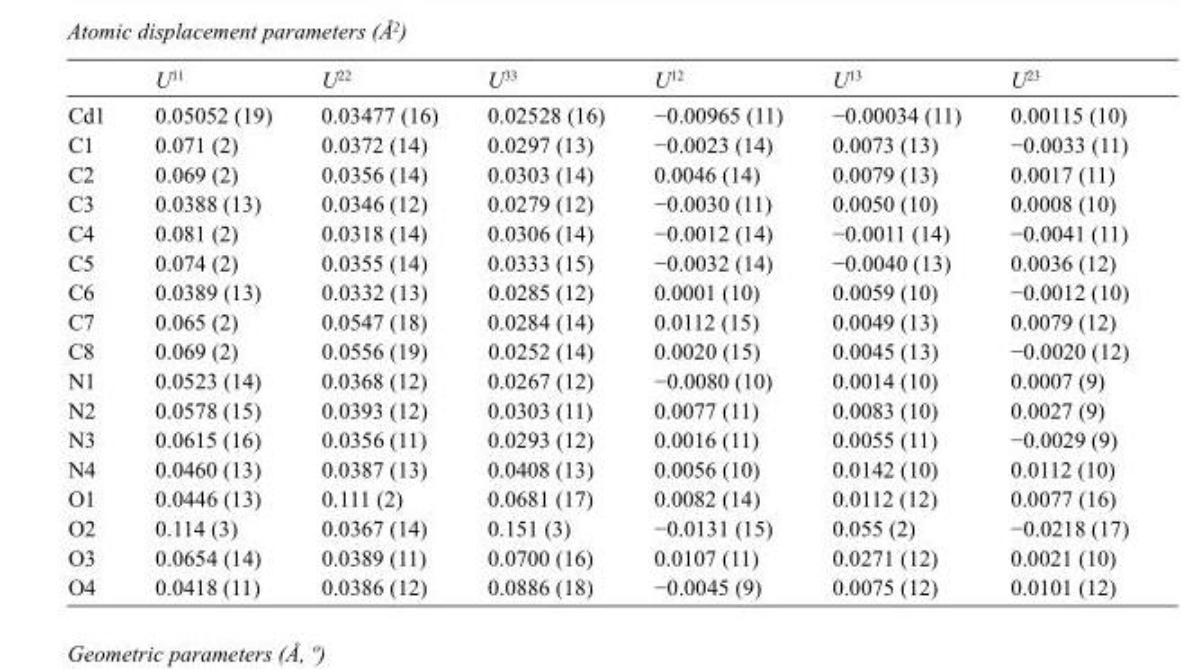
<table><thead><tr><td></td><td>U<sup>11</sup></td><td>U<sup>22</sup></td><td>U<sup>33</sup></td><td>U<sup>12</sup></td><td>U<sup>13</sup></td><td>U<sup>23</sup></td></tr></thead><tbody><tr><td>Cd1</td><td>0.05052 (19)</td><td>0.03477 (16)</td><td>0.02528 (16)</td><td>−0.00965 (11)</td><td>−0.00034 (11)</td><td>0.00115 (10)</td></tr><tr><td>C1</td><td>0.071 (2)</td><td>0.0372 (14)</td><td>0.0297 (13)</td><td>−0.0023 (14)</td><td>0.0073 (13)</td><td>−0.0033 (11)</td></tr><tr><td>C2</td><td>0.069 (2)</td><td>0.0356 (14)</td><td>0.0303 (14)</td><td>0.0046 (14)</td><td>0.0079 (13)</td><td>0.0017 (11)</td></tr><tr><td>C3</td><td>0.0388 (13)</td><td>0.0346 (12)</td><td>0.0279 (12)</td><td>−0.0030 (11)</td><td>0.0050 (10)</td><td>0.0008 (10)</td></tr><tr><td>C4</td><td>0.081 (2)</td><td>0.0318 (14)</td><td>0.0306 (14)</td><td>−0.0012 (14)</td><td>−0.0011 (14)</td><td>−0.0041 (11)</td></tr><tr><td>C5</td><td>0.074 (2)</td><td>0.0355 (14)</td><td>0.0333 (15)</td><td>−0.0032 (14)</td><td>−0.0040 (13)</td><td>0.0036 (12)</td></tr><tr><td>C6</td><td>0.0389 (13)</td><td>0.0332 (13)</td><td>0.0285 (12)</td><td>0.0001 (10)</td><td>0.0059 (10)</td><td>−0.0012 (10)</td></tr><tr><td>C7</td><td>0.065 (2)</td><td>0.0547 (18)</td><td>0.0284 (14)</td><td>0.0112 (15)</td><td>0.0049 (13)</td><td>0.0079 (12)</td></tr><tr><td>C8</td><td>0.069 (2)</td><td>0.0556 (19)</td><td>0.0252 (14)</td><td>0.0020 (15)</td><td>0.0045 (13)</td><td>−0.0020 (12)</td></tr><tr><td>N1</td><td>0.0523 (14)</td><td>0.0368 (12)</td><td>0.0267 (12)</td><td>−0.0080 (10)</td><td>0.0014 (10)</td><td>0.0007 (9)</td></tr><tr><td>N2</td><td>0.0578 (15)</td><td>0.0393 (12)</td><td>0.0303 (11)</td><td>0.0077 (11)</td><td>0.0083 (10)</td><td>0.0027 (9)</td></tr><tr><td>N3</td><td>0.0615 (16)</td><td>0.0356 (11)</td><td>0.0293 (12)</td><td>0.0016 (11)</td><td>0.0055 (11)</td><td>−0.0029 (9)</td></tr><tr><td>N4</td><td>0.0460 (13)</td><td>0.0387 (13)</td><td>0.0408 (13)</td><td>0.0056 (10)</td><td>0.0142 (10)</td><td>0.0112 (10)</td></tr><tr><td>O1</td><td>0.0446 (13)</td><td>0.111 (2)</td><td>0.0681 (17)</td><td>0.0082 (14)</td><td>0.0112 (12)</td><td>0.0077 (16)</td></tr><tr><td>O2</td><td>0.114 (3)</td><td>0.0367 (14)</td><td>0.151 (3)</td><td>−0.0131 (15)</td><td>0.055 (2)</td><td>−0.0218 (17)</td></tr><tr><td>O3</td><td>0.0654 (14)</td><td>0.0389 (11)</td><td>0.0700 (16)</td><td>0.0107 (11)</td><td>0.0271 (12)</td><td>0.0021 (10)</td></tr><tr><td>O4</td><td>0.0418 (11)</td><td>0.0386 (12)</td><td>0.0886 (18)</td><td>−0.0045 (9)</td><td>0.0075 (12)</td><td>0.0101 (12)</td></tr></tbody></table>